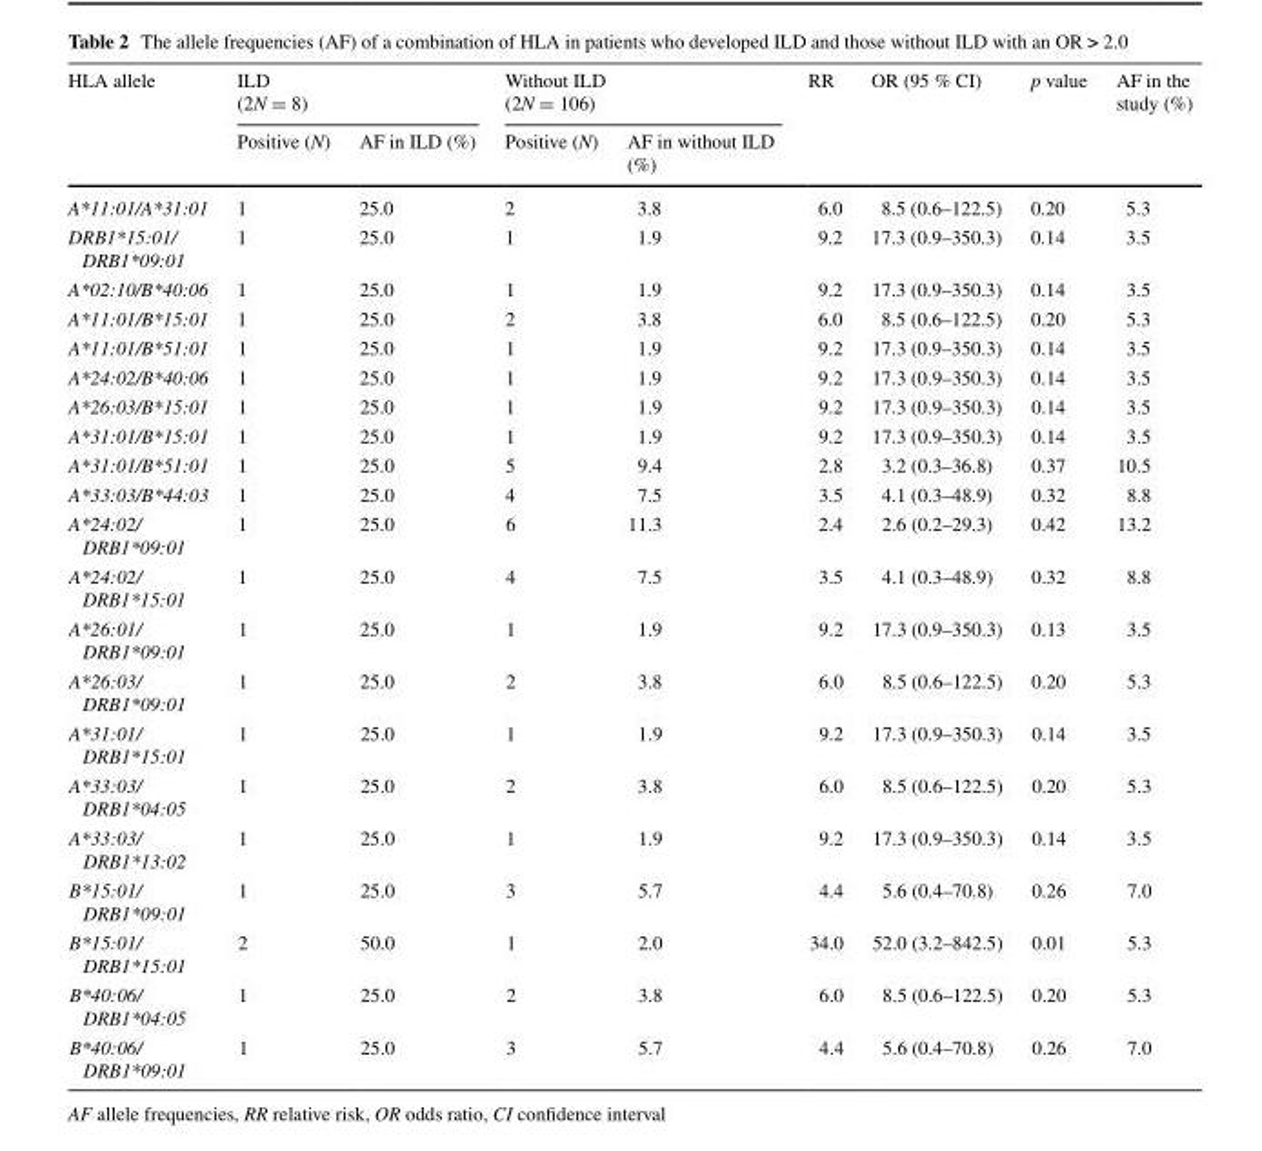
<table><thead><tr><td rowspan="2">HLA allele</td><td colspan="2">ILD (2N = 8)</td><td colspan="2">Without ILD (2N = 106)</td><td rowspan="2">RR</td><td rowspan="2">OR (95 % CI)</td><td rowspan="2">p value</td><td rowspan="2">AF in the study (%)</td></tr><tr><td>Positive (N)</td><td>AF in ILD (%)</td><td>Positive (N)</td><td>AF in without ILD (%)</td></tr></thead><tbody><tr><td>A*11:01/A*31:01</td><td>1</td><td>25.0</td><td>2</td><td>3.8</td><td>6.0</td><td>8.5 (0.6–122.5)</td><td>0.20</td><td>5.3</td></tr><tr><td>DRB1*15:01/ DRB1*09:01</td><td>1</td><td>25.0</td><td>1</td><td>1.9</td><td>9.2</td><td>17.3 (0.9–350.3)</td><td>0.14</td><td>3.5</td></tr><tr><td>A*02:10/B*40:06</td><td>1</td><td>25.0</td><td>1</td><td>1.9</td><td>9.2</td><td>17.3 (0.9–350.3)</td><td>0.14</td><td>3.5</td></tr><tr><td>A*11:01/B*15:01</td><td>1</td><td>25.0</td><td>2</td><td>3.8</td><td>6.0</td><td>8.5 (0.6–122.5)</td><td>0.20</td><td>5.3</td></tr><tr><td>A*11:01/B*51:01</td><td>1</td><td>25.0</td><td>1</td><td>1.9</td><td>9.2</td><td>17.3 (0.9–350.3)</td><td>0.14</td><td>3.5</td></tr><tr><td>A*24:02/B*40:06</td><td>1</td><td>25.0</td><td>1</td><td>1.9</td><td>9.2</td><td>17.3 (0.9–350.3)</td><td>0.14</td><td>3.5</td></tr><tr><td>A*26:03/B*15:01</td><td>1</td><td>25.0</td><td>1</td><td>1.9</td><td>9.2</td><td>17.3 (0.9–350.3)</td><td>0.14</td><td>3.5</td></tr><tr><td>A*31:01/B*15:01</td><td>1</td><td>25.0</td><td>1</td><td>1.9</td><td>9.2</td><td>17.3 (0.9–350.3)</td><td>0.14</td><td>3.5</td></tr><tr><td>A*31:01/B*51:01</td><td>1</td><td>25.0</td><td>5</td><td>9.4</td><td>2.8</td><td>3.2 (0.3–36.8)</td><td>0.37</td><td>10.5</td></tr><tr><td>A*33:03/B*44:03</td><td>1</td><td>25.0</td><td>4</td><td>7.5</td><td>3.5</td><td>4.1 (0.3–48.9)</td><td>0.32</td><td>8.8</td></tr><tr><td>A*24:02/ DRB1*09:01</td><td>1</td><td>25.0</td><td>6</td><td>11.3</td><td>2.4</td><td>2.6 (0.2–29.3)</td><td>0.42</td><td>13.2</td></tr><tr><td>A*24:02/ DRB1*15:01</td><td>1</td><td>25.0</td><td>4</td><td>7.5</td><td>3.5</td><td>4.1 (0.3–48.9)</td><td>0.32</td><td>8.8</td></tr><tr><td>A*26:01/ DRB1*09:01</td><td>1</td><td>25.0</td><td>1</td><td>1.9</td><td>9.2</td><td>17.3 (0.9–350.3)</td><td>0.13</td><td>3.5</td></tr><tr><td>A*26:03/ DRB1*09:01</td><td>1</td><td>25.0</td><td>2</td><td>3.8</td><td>6.0</td><td>8.5 (0.6–122.5)</td><td>0.20</td><td>5.3</td></tr><tr><td>A*31:01/ DRB1*15:01</td><td>1</td><td>25.0</td><td>1</td><td>1.9</td><td>9.2</td><td>17.3 (0.9–350.3)</td><td>0.14</td><td>3.5</td></tr><tr><td>A*33:03/ DRB1*04:05</td><td>1</td><td>25.0</td><td>2</td><td>3.8</td><td>6.0</td><td>8.5 (0.6–122.5)</td><td>0.20</td><td>5.3</td></tr><tr><td>A*33:03/ DRB1*13:02</td><td>1</td><td>25.0</td><td>1</td><td>1.9</td><td>9.2</td><td>17.3 (0.9–350.3)</td><td>0.14</td><td>3.5</td></tr><tr><td>B*15:01/ DRB1*09:01</td><td>1</td><td>25.0</td><td>3</td><td>5.7</td><td>4.4</td><td>5.6 (0.4–70.8)</td><td>0.26</td><td>7.0</td></tr><tr><td>B*15:01/ DRB1*15:01</td><td>2</td><td>50.0</td><td>1</td><td>2.0</td><td>34.0</td><td>52.0 (3.2–842.5)</td><td>0.01</td><td>5.3</td></tr><tr><td>B*40:06/ DRB1*04:05</td><td>1</td><td>25.0</td><td>2</td><td>3.8</td><td>6.0</td><td>8.5 (0.6–122.5)</td><td>0.20</td><td>5.3</td></tr><tr><td>B*40:06/ DRB1*09:01</td><td>1</td><td>25.0</td><td>3</td><td>5.7</td><td>4.4</td><td>5.6 (0.4–70.8)</td><td>0.26</td><td>7.0</td></tr></tbody></table>